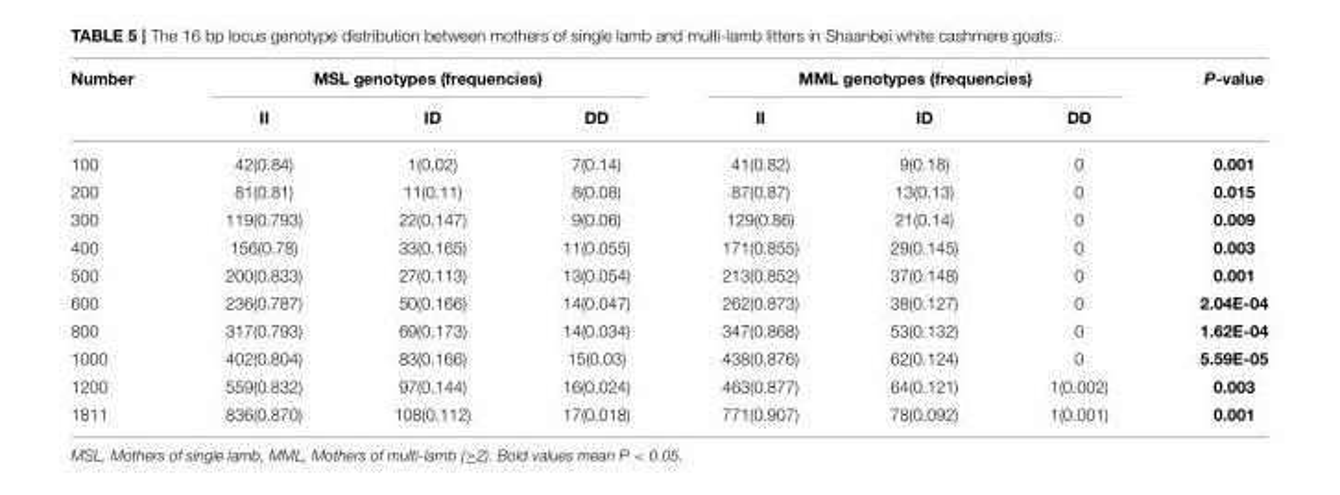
<table><thead><tr><td rowspan="2">Number</td><td colspan="3">MSL genotypes (frequencies)</td><td colspan="3">MML genotypes (frequencies)</td><td rowspan="2">P-value</td></tr><tr><td>II</td><td>ID</td><td>DD</td><td>II</td><td>ID</td><td>DD</td></tr></thead><tbody><tr><td>100</td><td>42(0.84)</td><td>1(0.02)</td><td>7(0.14)</td><td>41(0.82)</td><td>9(0.18)</td><td>0</td><td>0.001</td></tr><tr><td>200</td><td>81(0.81)</td><td>11(0.11)</td><td>8(0.08)</td><td>87(0.87)</td><td>13(0.13)</td><td>0</td><td>0.015</td></tr><tr><td>300</td><td>119(0.793)</td><td>22(0.147)</td><td>9(0.06)</td><td>129(0.86)</td><td>21(0.14)</td><td>0</td><td>0.009</td></tr><tr><td>400</td><td>156(0.78)</td><td>33(0.165)</td><td>11(0.055)</td><td>171(0.855)</td><td>29(0.145)</td><td>0</td><td>0.003</td></tr><tr><td>500</td><td>200(0.833)</td><td>27(0.113)</td><td>13(0.054)</td><td>213(0.852)</td><td>37(0.148)</td><td>0</td><td>0.001</td></tr><tr><td>600</td><td>236(0.787)</td><td>50(0.166)</td><td>14(0.047)</td><td>262(0.873)</td><td>38(0.127)</td><td>0</td><td>2.04E-04</td></tr><tr><td>800</td><td>317(0.793)</td><td>69(0.173)</td><td>14(0.034)</td><td>347(0.868)</td><td>53(0.132)</td><td>0</td><td>1.62E-04</td></tr><tr><td>1000</td><td>402(0.804)</td><td>83(0.166)</td><td>15(0.03)</td><td>438(0.876)</td><td>62(0.124)</td><td>0</td><td>5.59E-05</td></tr><tr><td>1200</td><td>559(0.832)</td><td>97(0.144)</td><td>16(0.024)</td><td>463(0.877)</td><td>64(0.121)</td><td>1(0.002)</td><td>0.003</td></tr><tr><td>1811</td><td>836(0.870)</td><td>108(0.112)</td><td>17(0.018)</td><td>771(0.907)</td><td>78(0.092)</td><td>1(0.001)</td><td>0.001</td></tr></tbody></table>